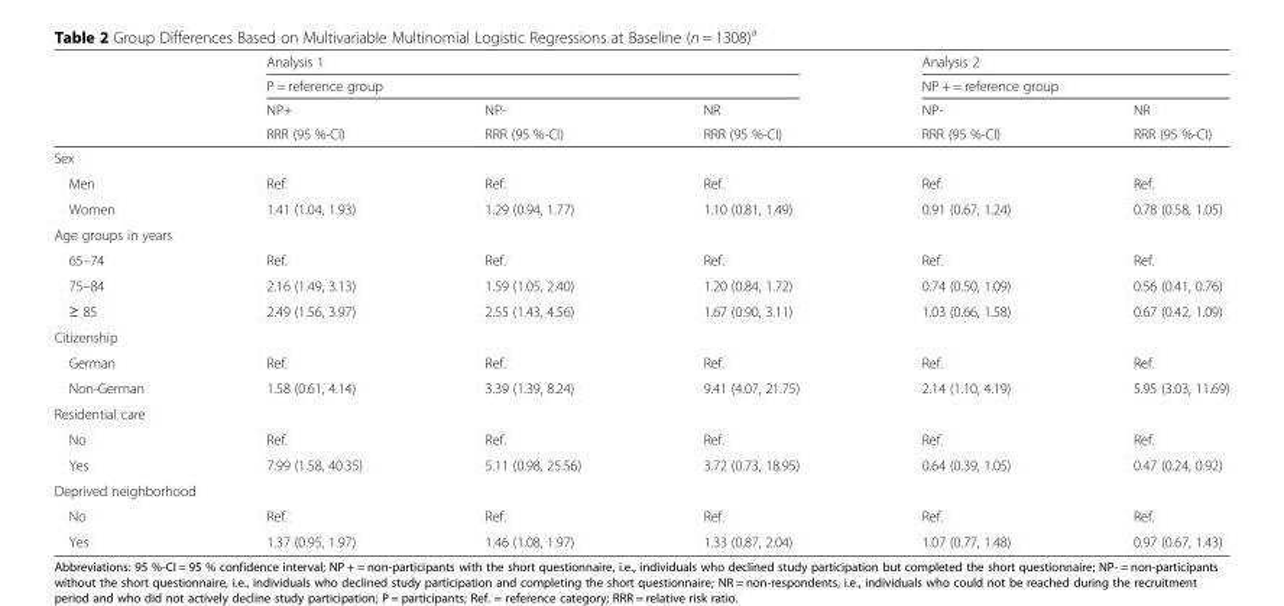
<table><thead><tr><td rowspan="4"></td><td rowspan="2" colspan="3">Analysis 1 P = reference group</td><td rowspan="2" colspan="2">Analysis 2 NP + = reference group</td></tr><tr></tr><tr><td rowspan="2">NP+ RRR (95 %-CI)</td><td rowspan="2">NP- RRR (95 %-CI)</td><td rowspan="2">NR RRR (95 %-CI)</td><td rowspan="2">NP- RRR (95 %-CI)</td><td rowspan="2">NR RRR (95 %-CI)</td></tr><tr></tr></thead><tbody><tr><td colspan="6">Sex</td></tr><tr><td>Men</td><td>Ref.</td><td>Ref.</td><td>Ref.</td><td>Ref.</td><td>Ref.</td></tr><tr><td>Women</td><td>1.41 (1.04, 1.93)</td><td>1.29 (0.94, 1.77)</td><td>1.10 (0.81, 1.49)</td><td>0.91 (0.67, 1.24)</td><td>0.78 (0.58, 1.05)</td></tr><tr><td colspan="6">Age groups in years</td></tr><tr><td>65–74</td><td>Ref.</td><td>Ref.</td><td>Ref.</td><td>Ref.</td><td>Ref.</td></tr><tr><td>75–84</td><td>2.16 (1.49, 3.13)</td><td>1.59 (1.05, 2.40)</td><td>1.20 (0.84, 1.72)</td><td>0.74 (0.50, 1.09)</td><td>0.56 (0.41, 0.76)</td></tr><tr><td>≥ 85</td><td>2.49 (1.56, 3.97)</td><td>2.55 (1.43, 4.56)</td><td>1.67 (0.90, 3.11)</td><td>1.03 (0.66, 1.58)</td><td>0.67 (0.42, 1.09)</td></tr><tr><td colspan="6">Citizenship</td></tr><tr><td>German</td><td>Ref.</td><td>Ref.</td><td>Ref.</td><td>Ref.</td><td>Ref.</td></tr><tr><td>Non-German</td><td>1.58 (0.61, 4.14)</td><td>3.39 (1.39, 8.24)</td><td>9.41 (4.07, 21.75)</td><td>2.14 (1.10, 4.19)</td><td>5.95 (3.03, 11.69)</td></tr><tr><td colspan="6">Residential care</td></tr><tr><td>No</td><td>Ref.</td><td>Ref.</td><td>Ref.</td><td>Ref.</td><td>Ref.</td></tr><tr><td>Yes</td><td>7.99 (1.58, 40.35)</td><td>5.11 (0.98, 25.56)</td><td>3.72 (0.73, 18.95)</td><td>0.64 (0.39, 1.05)</td><td>0.47 (0.24, 0.92)</td></tr><tr><td colspan="6">Deprived neighborhood</td></tr><tr><td>No</td><td>Ref.</td><td>Ref.</td><td>Ref.</td><td>Ref.</td><td>Ref.</td></tr><tr><td>Yes</td><td>1.37 (0.95, 1.97)</td><td>1.46 (1.08, 1.97)</td><td>1.33 (0.87, 2.04)</td><td>1.07 (0.77, 1.48)</td><td>0.97 (0.67, 1.43)</td></tr></tbody></table>